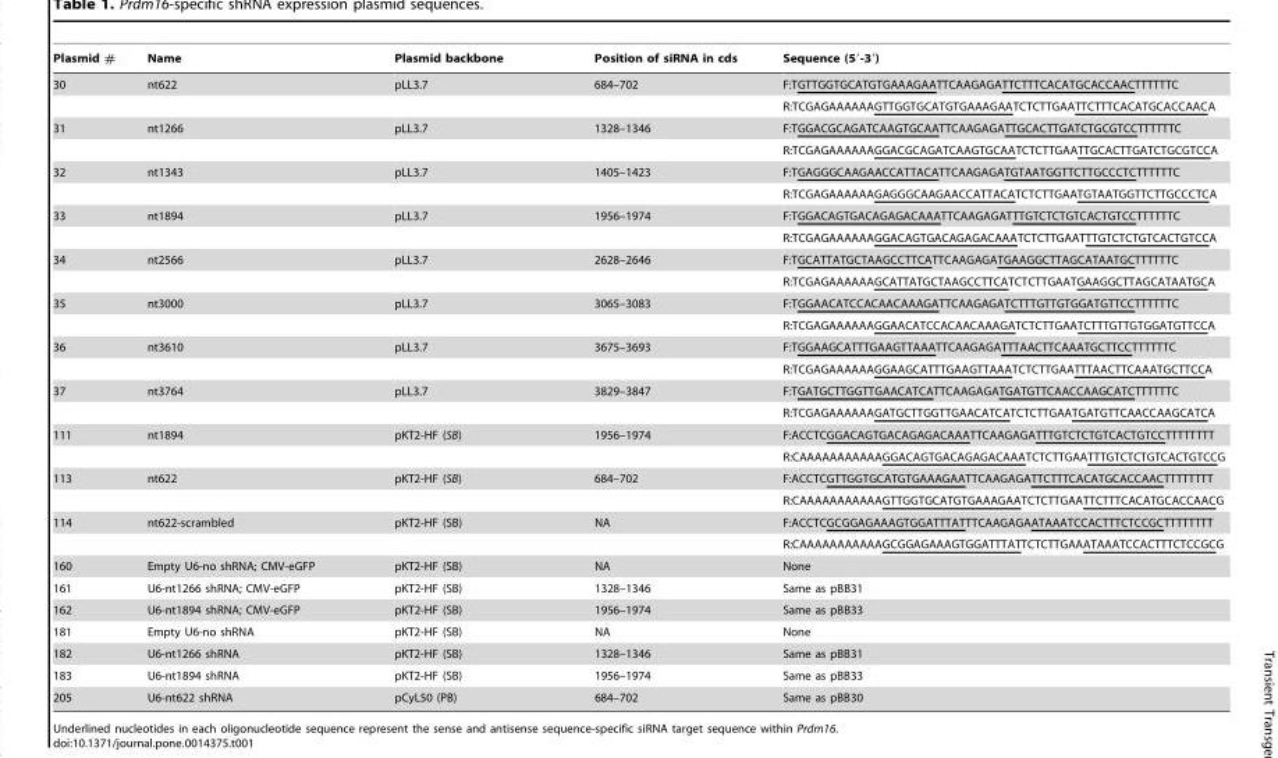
<table><thead><tr><td>Plasmid #</td><td>Name</td><td>Plasmid backbone</td><td>Position of siRNA in cds</td><td>Sequence (5′-3′)</td></tr></thead><tbody><tr><td rowspan="2">30</td><td>nt622</td><td>pLL3.7</td><td>684–702</td><td>F:TGTTGGTGCATGTGAAAGAATTCAAGAGATTCTTTCACATGCACCAACTTTTTTC</td></tr><tr><td></td><td></td><td></td><td>R:TCGAGAAAAAAGTTGGTGCATGTGAAAGAATCTCTTGAATTCTTTCACATGCACCAACA</td></tr><tr><td rowspan="2">31</td><td>nt1266</td><td>pLL3.7</td><td>1328–1346</td><td>F:TGGACGCAGATCAAGTGCAATTCAAGAGATTGCACTTGATCTGCGTCCTTTTTTC</td></tr><tr><td></td><td></td><td></td><td>R:TCGAGAAAAAAGGACGCAGATCAAGTGCAATCTCTTGAATTGCACTTGATCTGCGTCCA</td></tr><tr><td rowspan="2">32</td><td>nt1343</td><td>pLL3.7</td><td>1405–1423</td><td>F:TGAGGGCAAGAACCATTACATTCAAGAGATGTAATGGTTCTTGCCCTCTTTTTTC</td></tr><tr><td></td><td></td><td></td><td>R:TCGAGAAAAAAGAGGGCAAGAACCATTACATCTCTTGAATGTAATGGTTCTTGCCCTCA</td></tr><tr><td rowspan="2">33</td><td>nt1894</td><td>pLL3.7</td><td>1956–1974</td><td>F:TGGACAGTGACAGAGACAAATTCAAGAGATTTGTCTCTGTCACTGTCCTTTTTTC</td></tr><tr><td></td><td></td><td></td><td>R:TCGAGAAAAAAGGACAGTGACAGAGACAAATCTCTTGAATTTGTCTCTGTCACTGTCCA</td></tr><tr><td rowspan="2">34</td><td>nt2566</td><td>pLL3.7</td><td>2628–2646</td><td>F:TGCATTATGCTAAGCCTTCATTCAAGAGATGAAGGCTTAGCATAATGCTTTTTTC</td></tr><tr><td></td><td></td><td></td><td>R:TCGAGAAAAAAGCATTATGCTAAGCCTTCATCTCTTGAATGAAGGCTTAGCATAATGCA</td></tr><tr><td rowspan="2">35</td><td>nt3000</td><td>pLL3.7</td><td>3065–3083</td><td>F:TGGAACATCCACAACAAAGATTCAAGAGATCTTTGTTGTGGATGTTCCTTTTTTC</td></tr><tr><td></td><td></td><td></td><td>R:TCGAGAAAAAAGGAACATCCACAACAAAGATCTCTTGAATCTTTGTTGTGGATGTTCCA</td></tr><tr><td rowspan="2">36</td><td>nt3610</td><td>pLL3.7</td><td>3675–3693</td><td>F:TGGAAGCATTTGAAGTTAAATTCAAGAGATTTAACTTCAAATGCTTCCTTTTTTC</td></tr><tr><td></td><td></td><td></td><td>R:TCGAGAAAAAAGGAAGCATTTGAAGTTAAATCTCTTGAATTTAACTTCAAATGCTTCCA</td></tr><tr><td rowspan="2">37</td><td>nt3764</td><td>pLL3.7</td><td>3829–3847</td><td>F:TGATGCTTGGTTGAACATCATTCAAGAGATGATGTTCAACCAAGCATCTTTTTTC</td></tr><tr><td></td><td></td><td></td><td>R:TCGAGAAAAAAGATGCTTGGTTGAACATCATCTCTTGAATGATGTTCAACCAAGCATCA</td></tr><tr><td rowspan="2">111</td><td>nt1894</td><td>pKT2-HF (SB)</td><td>1956–1974</td><td>F:ACCTCGGACAGTGACAGAGACAAATTCAAGAGATTTGTCTCTGTCACTGTCCTTTTTTTT</td></tr><tr><td></td><td></td><td></td><td>R:CAAAAAAAAAAAGGACAGTGACAGAGACAAATCTCTTGAATTTGTCTCTGTCACTGTCCG</td></tr><tr><td rowspan="2">113</td><td>nt622</td><td>pKT2-HF (SB)</td><td>684–702</td><td>F:ACCTCGTTGGTGCATGTGAAAGAATTCAAGAGATTCTTTCACATGCACCAACTTTTTTTT</td></tr><tr><td></td><td></td><td></td><td>R:CAAAAAAAAAAAGTTGGTGCATGTGAAAGAATCTCTTGAATTCTTTCACATGCACCAACG</td></tr><tr><td rowspan="2">114</td><td>nt622-scrambled</td><td>pKT2-HF (SB)</td><td>NA</td><td>F:ACCTCGCGGAGAAAGTGGATTTATTTCAAGAGAATAAATCCACTTTCTCCGCTTTTTTTT</td></tr><tr><td></td><td></td><td></td><td>R:CAAAAAAAAAAAGCGGAGAAAGTGGATTTATTCTCTTGAAATAAATCCACTTTCTCCGCG</td></tr><tr><td>160</td><td>Empty U6-no shRNA; CMV-eGFP</td><td>pKT2-HF (SB)</td><td>NA</td><td>None</td></tr><tr><td>161</td><td>U6-nt1266 shRNA; CMV-eGFP</td><td>pKT2-HF (SB)</td><td>1328–1346</td><td>Same as pBB31</td></tr><tr><td>162</td><td>U6-nt1894 shRNA; CMV-eGFP</td><td>pKT2-HF (SB)</td><td>1956–1974</td><td>Same as pBB33</td></tr><tr><td>181</td><td>Empty U6-no shRNA</td><td>pKT2-HF (SB)</td><td>NA</td><td>None</td></tr><tr><td>182</td><td>U6-nt1266 shRNA</td><td>pKT2-HF (SB)</td><td>1328–1346</td><td>Same as pBB31</td></tr><tr><td>183</td><td>U6-nt1894 shRNA</td><td>pKT2-HF (SB)</td><td>1956–1974</td><td>Same as pBB33</td></tr><tr><td>205</td><td>U6-nt622 shRNA</td><td>pCyL50 (PB)</td><td>684–702</td><td>Same as pBB30</td></tr></tbody></table>